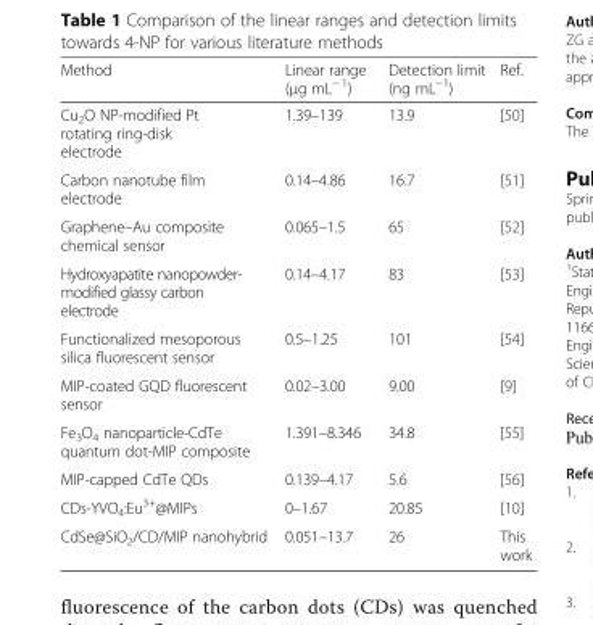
<table><thead><tr><td>Method</td><td>Linear range (μg mL<sup>− 1</sup>)</td><td>Detection limit (ng mL<sup>−1</sup>)</td><td>Ref.</td></tr></thead><tbody><tr><td>Cu<sub>2</sub>O NP-modified Pt rotating ring-disk electrode</td><td>1.39–139</td><td>13.9</td><td>[50]</td></tr><tr><td>Carbon nanotube film electrode</td><td>0.14–4.86</td><td>16.7</td><td>[51]</td></tr><tr><td>Graphene–Au composite chemical sensor</td><td>0.065–1.5</td><td>65</td><td>[52]</td></tr><tr><td>Hydroxyapatite nanopowder- modified glassy carbon electrode</td><td>0.14–4.17</td><td>83</td><td>[53]</td></tr><tr><td>Functionalized mesoporous silica fluorescent sensor</td><td>0.5–1.25</td><td>101</td><td>[54]</td></tr><tr><td>MIP-coated GQD fluorescent sensor</td><td>0.02–3.00</td><td>9.00</td><td>[9]</td></tr><tr><td>Fe<sub>3</sub>O<sub>4</sub> nanoparticle-CdTe quantum dot-MIP composite</td><td>1.391–8.346</td><td>34.8</td><td>[55]</td></tr><tr><td>MIP-capped CdTe QDs</td><td>0.139–4.17</td><td>5.6</td><td>[56]</td></tr><tr><td>CDs-YVO<sub>4</sub>:Eu<sup>3+</sup>@MIPs</td><td>0–1.67</td><td>20.85</td><td>[10]</td></tr><tr><td>CdSe@SiO<sub>2</sub>/CD/MIP nanohybrid</td><td>0.051–13.7</td><td>26</td><td>This work</td></tr></tbody></table>